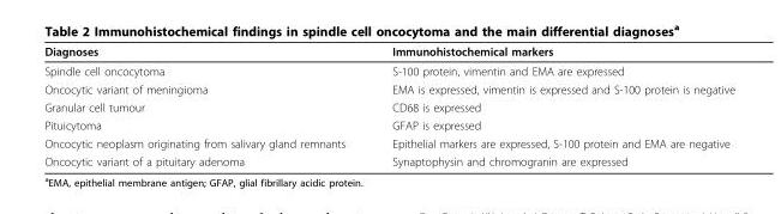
<table><thead><tr><td>Diagnoses</td><td>Immunohistochemical markers</td></tr></thead><tbody><tr><td>Spindle cell oncocytoma</td><td>S-100 protein, vimentin and EMA are expressed</td></tr><tr><td>Oncocytic variant of meningioma</td><td>EMA is expressed, vimentin is expressed and S-100 protein is negative</td></tr><tr><td>Granular cell tumour</td><td>CD68 is expressed</td></tr><tr><td>Pituicytoma</td><td>GFAP is expressed</td></tr><tr><td>Oncocytic neoplasm originating from salivary gland remnants</td><td>Epithelial markers are expressed, S-100 protein and EMA are negative</td></tr><tr><td>Oncocytic variant of a pituitary adenoma</td><td>Synaptophysin and chromogranin are expressed</td></tr></tbody></table>